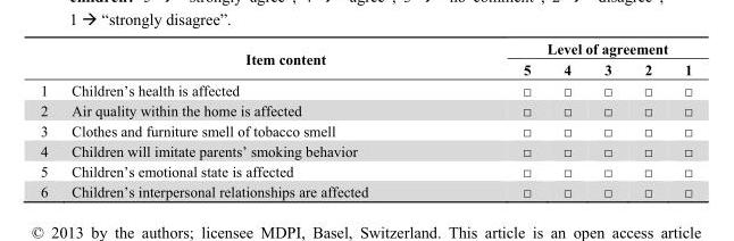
<table><thead><tr><td rowspan="2"></td><td rowspan="2">Item content</td><td colspan="5">Level of agreement</td></tr><tr><td>5</td><td>4</td><td>3</td><td>2</td><td>1</td></tr></thead><tbody><tr><td>1</td><td>Children’s health is affected</td><td>□</td><td>□</td><td>□</td><td>□</td><td>□</td></tr><tr><td>2</td><td>Air quality within the home is affected</td><td>□</td><td>□</td><td>□</td><td>□</td><td>□</td></tr><tr><td>3</td><td>Clothes and furniture smell of tobacco smell</td><td>□</td><td>□</td><td>□</td><td>□</td><td>□</td></tr><tr><td>4</td><td>Children will imitate parents’ smoking behavior</td><td>□</td><td>□</td><td>□</td><td>□</td><td>□</td></tr><tr><td>5</td><td>Children’s emotional state is affected</td><td>□</td><td>□</td><td>□</td><td>□</td><td>□</td></tr><tr><td>6</td><td>Children’s interpersonal relationships are affected</td><td>□</td><td>□</td><td>□</td><td>□</td><td>□</td></tr></tbody></table>